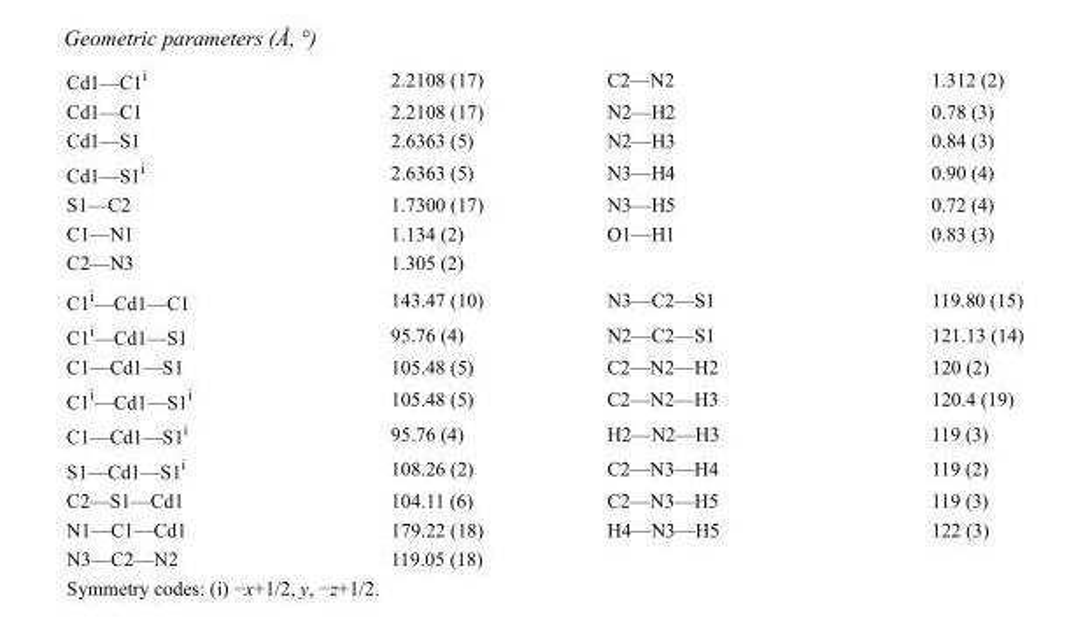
<table><tbody><tr><td>Cd1—C1<sup>i</sup></td><td>2.2108 (17)</td><td>C2—N2</td><td>1.312 (2)</td></tr><tr><td>Cd1—C1</td><td>2.2108 (17)</td><td>N2—H2</td><td>0.78 (3)</td></tr><tr><td>Cd1—S1</td><td>2.6363 (5)</td><td>N2—H3</td><td>0.84 (3)</td></tr><tr><td>Cd1—S1<sup>i</sup></td><td>2.6363 (5)</td><td>N3—H4</td><td>0.90 (4)</td></tr><tr><td>S1—C2</td><td>1.7300 (17)</td><td>N3—H5</td><td>0.72 (4)</td></tr><tr><td>C1—N1</td><td>1.134 (2)</td><td>O1—H1</td><td>0.83 (3)</td></tr><tr><td>C2—N3</td><td>1.305 (2)</td><td></td><td></td></tr><tr><td>C1<sup>i</sup>—Cd1—C1</td><td>143.47 (10)</td><td>N3—C2—S1</td><td>119.80 (15)</td></tr><tr><td>C1<sup>i</sup>—Cd1—S1</td><td>95.76 (4)</td><td>N2—C2—S1</td><td>121.13 (14)</td></tr><tr><td>C1—Cd1—S1</td><td>105.48 (5)</td><td>C2—N2—H2</td><td>120 (2)</td></tr><tr><td>C1<sup>i</sup>—Cd1—S1<sup>i</sup></td><td>105.48 (5)</td><td>C2—N2—H3</td><td>120.4 (19)</td></tr><tr><td>C1—Cd1—S1<sup>i</sup></td><td>95.76 (4)</td><td>H2—N2—H3</td><td>119 (3)</td></tr><tr><td>S1—Cd1—S1<sup>i</sup></td><td>108.26 (2)</td><td>C2—N3—H4</td><td>119 (2)</td></tr><tr><td>C2—S1—Cd1</td><td>104.11 (6)</td><td>C2—N3—H5</td><td>119 (3)</td></tr><tr><td>N1—C1—Cd1</td><td>179.22 (18)</td><td>H4—N3—H5</td><td>122 (3)</td></tr><tr><td>N3—C2—N2</td><td>119.05 (18)</td><td></td><td></td></tr></tbody></table>